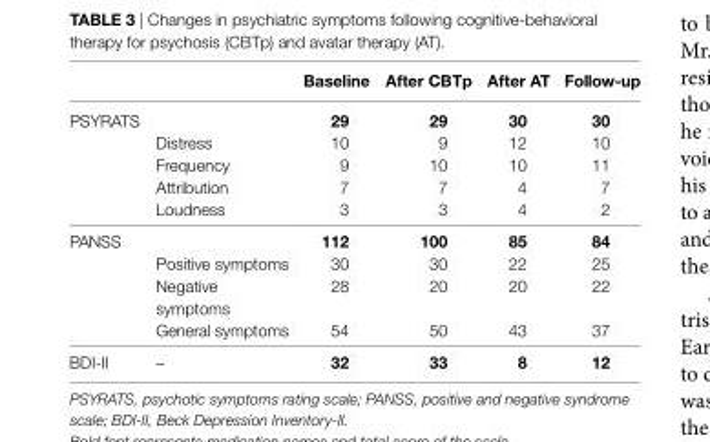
<table><thead><tr><td></td><td></td><td>baseline</td><td>after Cbtp</td><td>after at</td><td>Follow-up</td></tr></thead><tbody><tr><td rowspan="5">PSYRATS</td><td></td><td>29</td><td>29</td><td>30</td><td>30</td></tr><tr><td>Distress</td><td>10</td><td>9</td><td>12</td><td>10</td></tr><tr><td>Frequency</td><td>9</td><td>10</td><td>10</td><td>11</td></tr><tr><td>Attribution</td><td>7</td><td>7</td><td>4</td><td>7</td></tr><tr><td>Loudness</td><td>3</td><td>3</td><td>4</td><td>2</td></tr><tr><td rowspan="4">PANSS</td><td></td><td>112</td><td>100</td><td>85</td><td>84</td></tr><tr><td>Positive symptoms</td><td>30</td><td>30</td><td>22</td><td>25</td></tr><tr><td>Negative symptoms</td><td>28</td><td>20</td><td>20</td><td>22</td></tr><tr><td>General symptoms</td><td>54</td><td>50</td><td>43</td><td>37</td></tr><tr><td>BDI-II</td><td>–</td><td>32</td><td>33</td><td>8</td><td>12</td></tr></tbody></table>